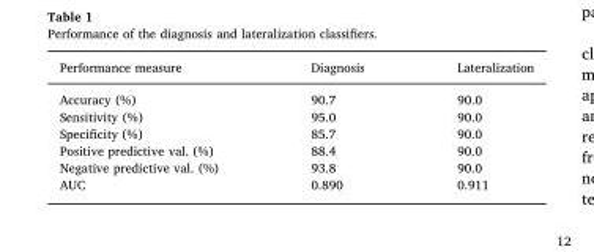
<table><thead><tr><td>Performance measure</td><td>Diagnosis</td><td>Lateralization</td></tr></thead><tbody><tr><td>Accuracy (%)</td><td>90.7</td><td>90.0</td></tr><tr><td>Sensitivity (%)</td><td>95.0</td><td>90.0</td></tr><tr><td>Specificity (%)</td><td>85.7</td><td>90.0</td></tr><tr><td>Positive predictive val. (%)</td><td>88.4</td><td>90.0</td></tr><tr><td>Negative predictive val. (%)</td><td>93.8</td><td>90.0</td></tr><tr><td>AUC</td><td>0.890</td><td>0.911</td></tr></tbody></table>